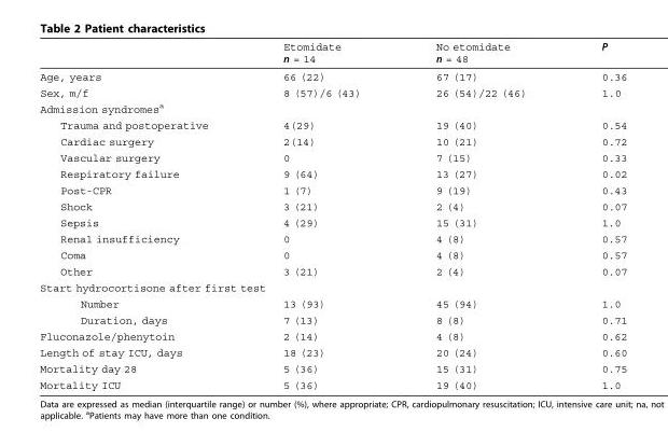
<table><thead><tr><td></td><td>Etomidate n = 14</td><td>No etomidate n = 48</td><td>P</td></tr></thead><tbody><tr><td>Age, years</td><td>66 (22)</td><td>67 (17)</td><td>0.36</td></tr><tr><td>Sex, m/f</td><td>8 (57)/6 (43)</td><td>26 (54)/22 (46)</td><td>1.0</td></tr><tr><td colspan="4">Admission syndromes<sup>a</sup></td></tr><tr><td>Trauma and postoperative</td><td>4(29)</td><td>19 (40)</td><td>0.54</td></tr><tr><td>Cardiac surgery</td><td>2(14)</td><td>10 (21)</td><td>0.72</td></tr><tr><td>Vascular surgery</td><td>0</td><td>7 (15)</td><td>0.33</td></tr><tr><td>Respiratory failure</td><td>9 (64)</td><td>13 (27)</td><td>0.02</td></tr><tr><td>Post-CPR</td><td>1 (7)</td><td>9 (19)</td><td>0.43</td></tr><tr><td>Shock</td><td>3 (21)</td><td>2 (4)</td><td>0.07</td></tr><tr><td>Sepsis</td><td>4 (29)</td><td>15 (31)</td><td>1.0</td></tr><tr><td>Renal insufficiency</td><td>0</td><td>4 (8)</td><td>0.57</td></tr><tr><td>Coma</td><td>0</td><td>4 (8)</td><td>0.57</td></tr><tr><td>Other</td><td>3 (21)</td><td>2 (4)</td><td>0.07</td></tr><tr><td colspan="4">Start hydrocortisone after first test</td></tr><tr><td>Number</td><td>13 (93)</td><td>45 (94)</td><td>1.0</td></tr><tr><td>Duration, days</td><td>7 (13)</td><td>8 (8)</td><td>0.71</td></tr><tr><td>Fluconazole/phenytoin</td><td>2 (14)</td><td>4 (8)</td><td>0.62</td></tr><tr><td>Length of stay ICU, days</td><td>18 (23)</td><td>20 (24)</td><td>0.60</td></tr><tr><td>Mortality day 28</td><td>5 (36)</td><td>15 (31)</td><td>0.75</td></tr><tr><td>Mortality ICU</td><td>5 (36)</td><td>19 (40)</td><td>1.0</td></tr></tbody></table>